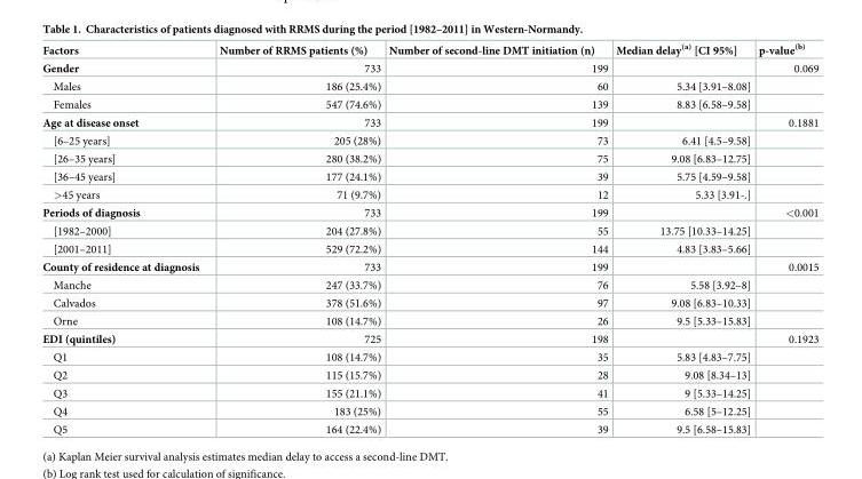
<table><thead><tr><td>Factors</td><td>Number of RRMS patients (%)</td><td>Number of second-line DMT initiation (n)</td><td>Median delay<sup>(a)</sup> [CI 95%]</td><td>p-value<sup>(b)</sup></td></tr></thead><tbody><tr><td>Gender</td><td>733</td><td>199</td><td></td><td>0.069</td></tr><tr><td>Males</td><td>186 (25.4%)</td><td>60</td><td>5.34 [3.91–8.08]</td><td></td></tr><tr><td>Females</td><td>547 (74.6%)</td><td>139</td><td>8.83 [6.58–9.58]</td><td></td></tr><tr><td>Age at disease onset</td><td>733</td><td>199</td><td></td><td>0.1881</td></tr><tr><td>[6–25 years]</td><td>205 (28%)</td><td>73</td><td>6.41 [4.5–9.58]</td><td></td></tr><tr><td>[26–35 years]</td><td>280 (38.2%)</td><td>75</td><td>9.08 [6.83–12.75]</td><td></td></tr><tr><td>[36–45 years]</td><td>177 (24.1%)</td><td>39</td><td>5.75 [4.59–9.58]</td><td></td></tr><tr><td>&gt;45 years</td><td>71 (9.7%)</td><td>12</td><td>5.33 [3.91-.]</td><td></td></tr><tr><td>Periods of diagnosis</td><td>733</td><td>199</td><td></td><td>&lt;0.001</td></tr><tr><td>[1982–2000]</td><td>204 (27.8%)</td><td>55</td><td>13.75 [10.33–14.25]</td><td></td></tr><tr><td>[2001–2011]</td><td>529 (72.2%)</td><td>144</td><td>4.83 [3.83–5.66]</td><td></td></tr><tr><td>County of residence at diagnosis</td><td>733</td><td>199</td><td></td><td>0.0015</td></tr><tr><td>Manche</td><td>247 (33.7%)</td><td>76</td><td>5.58 [3.92–8]</td><td></td></tr><tr><td>Calvados</td><td>378 (51.6%)</td><td>97</td><td>9.08 [6.83–10.33]</td><td></td></tr><tr><td>Orne</td><td>108 (14.7%)</td><td>26</td><td>9.5 [5.33–15.83]</td><td></td></tr><tr><td>EDI (quintiles)</td><td>725</td><td>198</td><td></td><td>0.1923</td></tr><tr><td>Q1</td><td>108 (14.7%)</td><td>35</td><td>5.83 [4.83–7.75]</td><td></td></tr><tr><td>Q2</td><td>115 (15.7%)</td><td>28</td><td>9.08 [8.34–13]</td><td></td></tr><tr><td>Q3</td><td>155 (21.1%)</td><td>41</td><td>9 [5.33–14.25]</td><td></td></tr><tr><td>Q4</td><td>183 (25%)</td><td>55</td><td>6.58 [5–12.25]</td><td></td></tr><tr><td>Q5</td><td>164 (22.4%)</td><td>39</td><td>9.5 [6.58–15.83]</td><td></td></tr></tbody></table>